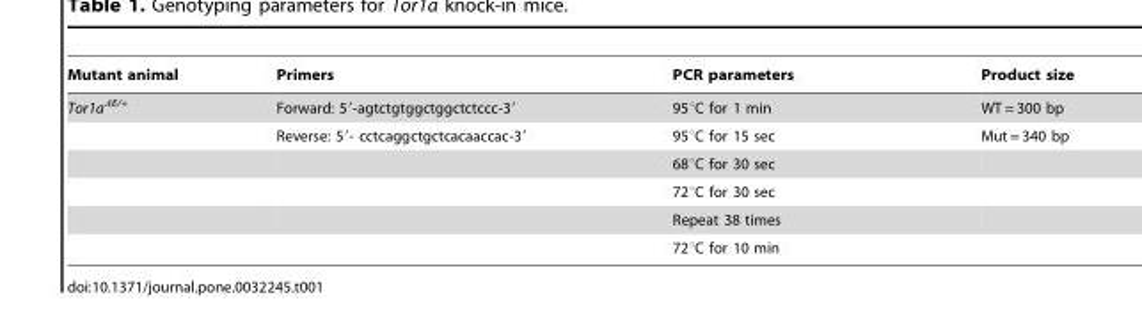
<table><thead><tr><td>Mutant animal</td><td>Primers</td><td>PCR parameters</td><td>Product size</td></tr></thead><tbody><tr><td rowspan="6">Tor1a<sup>ΔE/+</sup></td><td>Forward: 5′-agtctgtggctggctctccc-3′</td><td>95°C for 1 min</td><td>WT = 300 bp</td></tr><tr><td>Reverse: 5′- cctcaggctgctcacaaccac-3′</td><td>95°C for 15 sec</td><td>Mut = 340 bp</td></tr><tr><td></td><td>68°C for 30 sec</td><td></td></tr><tr><td></td><td>72°C for 30 sec</td><td></td></tr><tr><td></td><td>Repeat 38 times</td><td></td></tr><tr><td></td><td>72°C for 10 min</td><td></td></tr></tbody></table>